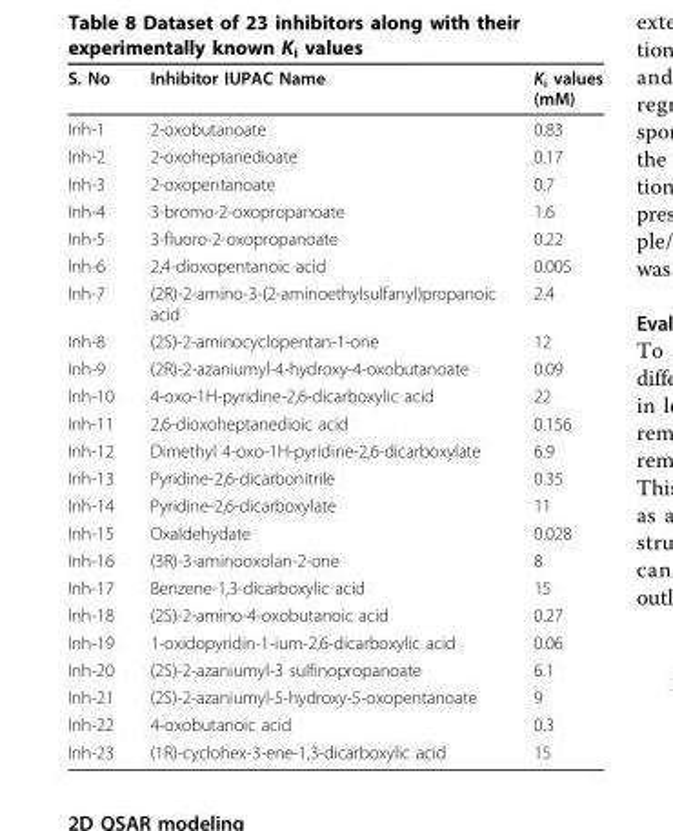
<table><thead><tr><td>S. No</td><td>Inhibitor IUPAC Name</td><td>K<sub>i</sub> values (mM)</td></tr></thead><tbody><tr><td>Inh-1</td><td>2-oxobutanoate</td><td>0.83</td></tr><tr><td>Inh-2</td><td>2-oxoheptanedioate</td><td>0.17</td></tr><tr><td>Inh-3</td><td>2-oxopentanoate</td><td>0.7</td></tr><tr><td>Inh-4</td><td>3-bromo-2-oxopropanoate</td><td>1.6</td></tr><tr><td>Inh-5</td><td>3-fluoro-2-oxopropanoate</td><td>0.22</td></tr><tr><td>Inh-6</td><td>2,4-dioxopentanoic acid</td><td>0.005</td></tr><tr><td>Inh-7</td><td>(2R)-2-amino-3-(2-aminoethylsulfanyl)propanoic acid</td><td>2.4</td></tr><tr><td>Inh-8</td><td>(2S)-2-aminocyclopentan-1-one</td><td>12</td></tr><tr><td>Inh-9</td><td>(2R)-2-azaniumyl-4-hydroxy-4-oxobutanoate</td><td>0.09</td></tr><tr><td>Inh-10</td><td>4-oxo-1H-pyridine-2,6-dicarboxylic acid</td><td>22</td></tr><tr><td>Inh-11</td><td>2,6-dioxoheptanedioic acid</td><td>0.156</td></tr><tr><td>Inh-12</td><td>Dimethyl 4-oxo-1H-pyridine-2,6-dicarboxylate</td><td>6.9</td></tr><tr><td>Inh-13</td><td>Pyridine-2,6-dicarbonitrile</td><td>0.35</td></tr><tr><td>Inh-14</td><td>Pyridine-2,6-dicarboxylate</td><td>11</td></tr><tr><td>Inh-15</td><td>Oxaldehydate</td><td>0.028</td></tr><tr><td>Inh-16</td><td>(3R)-3-aminooxolan-2-one</td><td>8</td></tr><tr><td>Inh-17</td><td>Benzene-1,3-dicarboxylic acid</td><td>15</td></tr><tr><td>Inh-18</td><td>(2S)-2-amino-4-oxobutanoic acid</td><td>0.27</td></tr><tr><td>Inh-19</td><td>1-oxidopyridin-1-ium-2,6-dicarboxylic acid</td><td>0.06</td></tr><tr><td>Inh-20</td><td>(2S)-2-azaniumyl-3 sulfinopropanoate</td><td>6.1</td></tr><tr><td>Inh-21</td><td>(2S)-2-azaniumyl-5-hydroxy-5-oxopentanoate</td><td>9</td></tr><tr><td>Inh-22</td><td>4-oxobutanoic acid</td><td>0.3</td></tr><tr><td>Inh-23</td><td>(1R)-cyclohex-3-ene-1,3-dicarboxylic acid</td><td>15</td></tr></tbody></table>